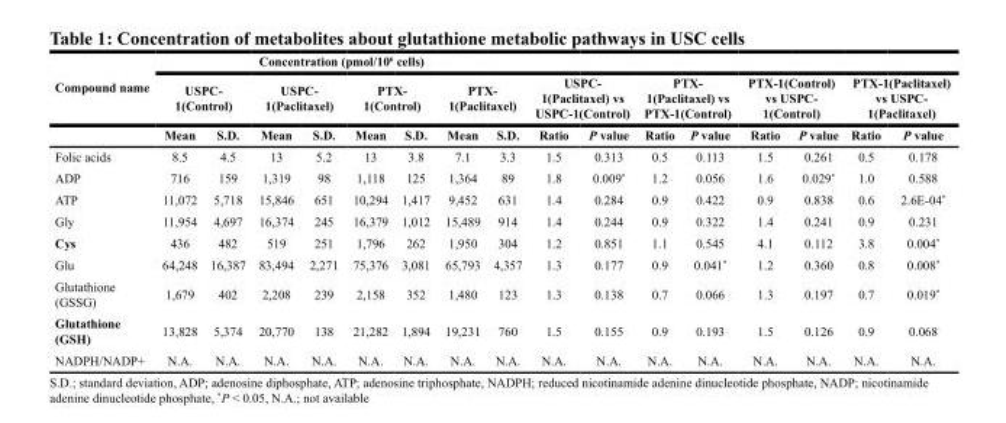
<table><thead><tr><td rowspan="3">Compound name</td><td colspan="8">Concentration (pmol/10<sup>6</sup> cells)</td><td></td><td></td><td></td><td></td><td></td><td></td><td></td><td></td></tr><tr><td colspan="2">USPC- 1(Control)</td><td colspan="2">USPC- 1(Paclitaxel)</td><td colspan="2">PTX- 1(Control)</td><td colspan="2">PTX- 1(Paclitaxel)</td><td colspan="2">USPC- 1(Paclitaxel) vs USPC-1(Control)</td><td colspan="2">PTX- 1(Paclitaxel) vs PTX-1(Control)</td><td colspan="2">PTX-1(Control) vs USPC- 1(Control)</td><td colspan="2">PTX-1(Paclitaxel) vs USPC- 1(Paclitaxel)</td></tr><tr><td>Mean</td><td>S.D.</td><td>Mean</td><td>S.D.</td><td>Mean</td><td>S.D.</td><td>Mean</td><td>S.D.</td><td>Ratio</td><td>P value</td><td>Ratio</td><td>P value</td><td>Ratio</td><td>P value</td><td>Ratio</td><td>P value</td></tr></thead><tbody><tr><td>Folic acids</td><td>8.5</td><td>4.5</td><td>13</td><td>5.2</td><td>13</td><td>3.8</td><td>7.1</td><td>3.3</td><td>1.5</td><td>0.313</td><td>0.5</td><td>0.113</td><td>1.5</td><td>0.261</td><td>0.5</td><td>0.178</td></tr><tr><td>ADP</td><td>716</td><td>159</td><td>1,319</td><td>98</td><td>1,118</td><td>125</td><td>1,364</td><td>89</td><td>1.8</td><td>0.009*</td><td>1.2</td><td>0.056</td><td>1.6</td><td>0.029*</td><td>1.0</td><td>0.588</td></tr><tr><td>ATP</td><td>11,072</td><td>5,718</td><td>15,846</td><td>651</td><td>10,294</td><td>1,417</td><td>9,452</td><td>631</td><td>1.4</td><td>0.284</td><td>0.9</td><td>0.422</td><td>0.9</td><td>0.838</td><td>0.6</td><td>2.6E-04*</td></tr><tr><td>Gly</td><td>11,954</td><td>4,697</td><td>16,374</td><td>245</td><td>16,379</td><td>1,012</td><td>15,489</td><td>914</td><td>1.4</td><td>0.244</td><td>0.9</td><td>0.322</td><td>1.4</td><td>0.241</td><td>0.9</td><td>0.231</td></tr><tr><td>Cys</td><td>436</td><td>482</td><td>519</td><td>251</td><td>1,796</td><td>262</td><td>1,950</td><td>304</td><td>1.2</td><td>0.851</td><td>1.1</td><td>0.545</td><td>4.1</td><td>0.112</td><td>3.8</td><td>0.004*</td></tr><tr><td>Glu</td><td>64,248</td><td>16,387</td><td>83,494</td><td>2,271</td><td>75,376</td><td>3,081</td><td>65,793</td><td>4,357</td><td>1.3</td><td>0.177</td><td>0.9</td><td>0.041*</td><td>1.2</td><td>0.360</td><td>0.8</td><td>0.008*</td></tr><tr><td>Glutathione (GSSG)</td><td>1,679</td><td>402</td><td>2,208</td><td>239</td><td>2,158</td><td>352</td><td>1,480</td><td>123</td><td>1.3</td><td>0.138</td><td>0.7</td><td>0.066</td><td>1.3</td><td>0.197</td><td>0.7</td><td>0.019*</td></tr><tr><td>Glutathione (GSH)</td><td>13,828</td><td>5,374</td><td>20,770</td><td>138</td><td>21,282</td><td>1,894</td><td>19,231</td><td>760</td><td>1.5</td><td>0.155</td><td>0.9</td><td>0.193</td><td>1.5</td><td>0.126</td><td>0.9</td><td>0.068</td></tr><tr><td>NADPH/NADP+</td><td>N.A.</td><td>N.A.</td><td>N.A.</td><td>N.A.</td><td>N.A.</td><td>N.A.</td><td>N.A.</td><td>N.A.</td><td>N.A.</td><td>N.A.</td><td>N.A.</td><td>N.A.</td><td>N.A.</td><td>N.A.</td><td>N.A.</td><td>N.A.</td></tr></tbody></table>